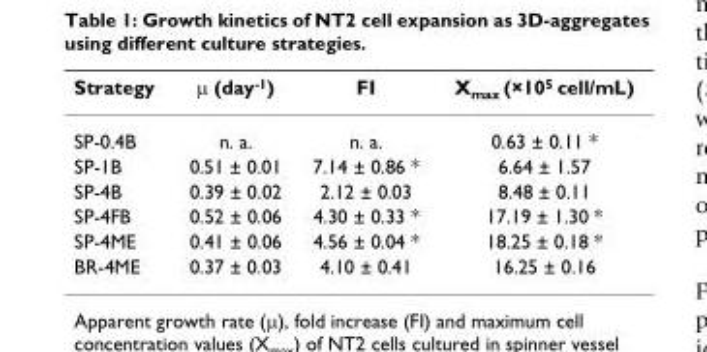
<table><thead><tr><td>Strategy</td><td>μ (day<sup>-1</sup>)</td><td>FI</td><td>X<sub>max</sub> (×10<sup>5</sup> cell/mL)</td></tr></thead><tbody><tr><td>SP-0.4B</td><td>n. a.</td><td>n. a.</td><td>0.63 ± 0.11 *</td></tr><tr><td>SP-1B</td><td>0.51 ± 0.01</td><td>7.14 ± 0.86 *</td><td>6.64 ± 1.57</td></tr><tr><td>SP-4B</td><td>0.39 ± 0.02</td><td>2.12 ± 0.03</td><td>8.48 ± 0.11</td></tr><tr><td>SP-4FB</td><td>0.52 ± 0.06</td><td>4.30 ± 0.33 *</td><td>17.19 ± 1.30 *</td></tr><tr><td>SP-4ME</td><td>0.41 ± 0.06</td><td>4.56 ± 0.04 *</td><td>18.25 ± 0.18 *</td></tr><tr><td>BR-4ME</td><td>0.37 ± 0.03</td><td>4.10 ± 0.41</td><td>16.25 ± 0.16</td></tr></tbody></table>